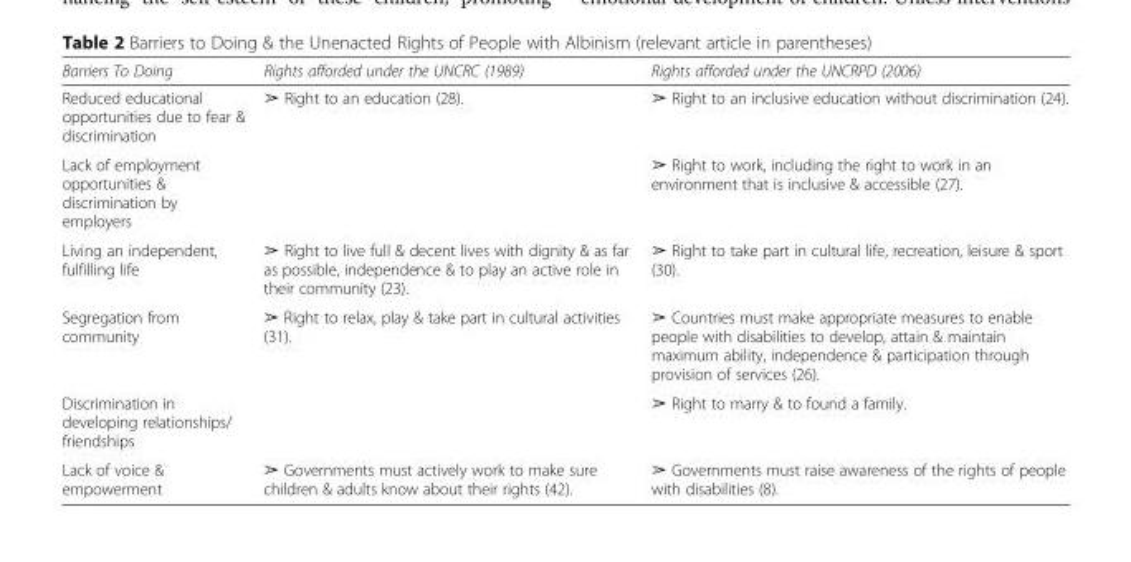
<table><thead><tr><td>Barriers To Doing</td><td>Rights afforded under the UNCRC (1989)</td><td>Rights afforded under the UNCRPD (2006)</td></tr></thead><tbody><tr><td>Reduced educational opportunities due to fear &amp; discrimination</td><td>➢ Right to an education (28).</td><td>➢ Right to an inclusive education without discrimination (24).</td></tr><tr><td>Lack of employment opportunities &amp; discrimination by employers</td><td></td><td>➢ Right to work, including the right to work in an environment that is inclusive &amp; accessible (27).</td></tr><tr><td>Living an independent, fulfilling life</td><td>➢ Right to live full &amp; decent lives with dignity &amp; as far as possible, independence &amp; to play an active role in their community (23).</td><td>➢ Right to take part in cultural life, recreation, leisure &amp; sport (30).</td></tr><tr><td>Segregation from community</td><td>➢ Right to relax, play &amp; take part in cultural activities (31).</td><td>➢ Countries must make appropriate measures to enable people with disabilities to develop, attain &amp; maintain maximum ability, independence &amp; participation through provision of services (26).</td></tr><tr><td>Discrimination in developing relationships/ friendships</td><td></td><td>➢ Right to marry &amp; to found a family.</td></tr><tr><td>Lack of voice &amp; empowerment</td><td>➢ Governments must actively work to make sure children &amp; adults know about their rights (42).</td><td>➢ Governments must raise awareness of the rights of people with disabilities (8).</td></tr></tbody></table>